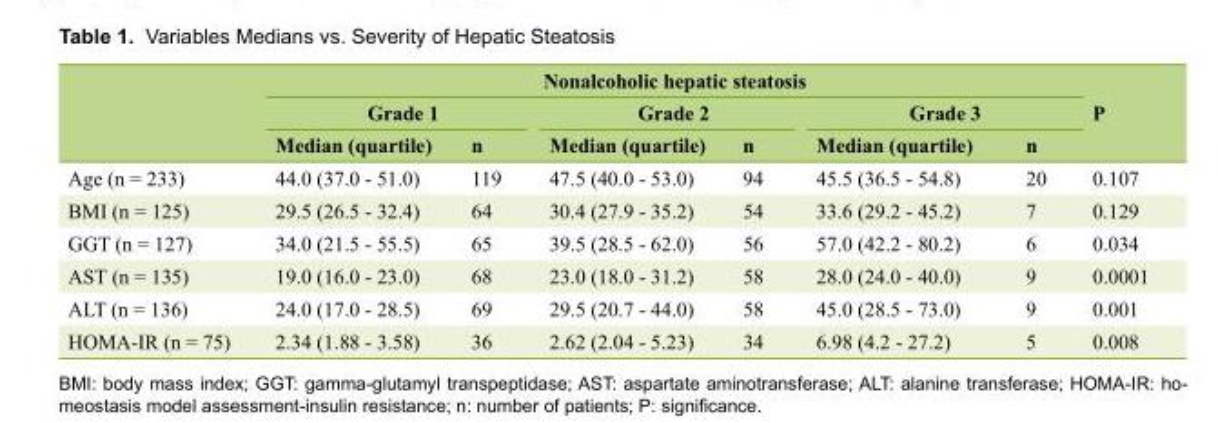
<table><thead><tr><td rowspan="3"></td><td colspan="6">Nonalcoholic hepatic steatosis</td><td rowspan="3">P</td></tr><tr><td colspan="2">Grade 1</td><td colspan="2">Grade 2</td><td colspan="2">Grade 3</td></tr><tr><td>Median (quartile)</td><td>n</td><td>Median (quartile)</td><td>n</td><td>Median (quartile)</td><td>n</td></tr></thead><tbody><tr><td>Age (n = 233)</td><td>44.0 (37.0 - 51.0)</td><td>119</td><td>47.5 (40.0 - 53.0)</td><td>94</td><td>45.5 (36.5 - 54.8)</td><td>20</td><td>0.107</td></tr><tr><td>BMI (n = 125)</td><td>29.5 (26.5 - 32.4)</td><td>64</td><td>30.4 (27.9 - 35.2)</td><td>54</td><td>33.6 (29.2 - 45.2)</td><td>7</td><td>0.129</td></tr><tr><td>GGT (n = 127)</td><td>34.0 (21.5 - 55.5)</td><td>65</td><td>39.5 (28.5 - 62.0)</td><td>56</td><td>57.0 (42.2 - 80.2)</td><td>6</td><td>0.034</td></tr><tr><td>AST (n = 135)</td><td>19.0 (16.0 - 23.0)</td><td>68</td><td>23.0 (18.0 - 31.2)</td><td>58</td><td>28.0 (24.0 - 40.0)</td><td>9</td><td>0.0001</td></tr><tr><td>ALT (n = 136)</td><td>24.0 (17.0 - 28.5)</td><td>69</td><td>29.5 (20.7 - 44.0)</td><td>58</td><td>45.0 (28.5 - 73.0)</td><td>9</td><td>0.001</td></tr><tr><td>HOMA-IR (n = 75)</td><td>2.34 (1.88 - 3.58)</td><td>36</td><td>2.62 (2.04 - 5.23)</td><td>34</td><td>6.98 (4.2 - 27.2)</td><td>5</td><td>0.008</td></tr></tbody></table>